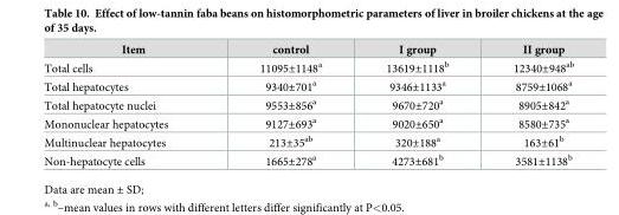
<table><thead><tr><td>Item</td><td>control</td><td>I group</td><td>II group</td></tr></thead><tbody><tr><td>Total cells</td><td>11095±1148<sup>a</sup></td><td>13619±1118<sup>b</sup></td><td>12340±948<sup>ab</sup></td></tr><tr><td>Total hepatocytes</td><td>9340±701<sup>a</sup></td><td>9346±1133<sup>a</sup></td><td>8759±1068<sup>a</sup></td></tr><tr><td>Total hepatocyte nuclei</td><td>9553±856<sup>a</sup></td><td>9670±720<sup>a</sup></td><td>8905±842<sup>a</sup></td></tr><tr><td>Mononuclear hepatocytes</td><td>9127±693<sup>a</sup></td><td>9020±650<sup>a</sup></td><td>8580±735<sup>a</sup></td></tr><tr><td>Multinuclear hepatocytes</td><td>213±35<sup>ab</sup></td><td>320±188<sup>a</sup></td><td>163±61<sup>b</sup></td></tr><tr><td>Non-hepatocyte cells</td><td>1665±278<sup>a</sup></td><td>4273±681<sup>b</sup></td><td>3581±1138<sup>b</sup></td></tr></tbody></table>